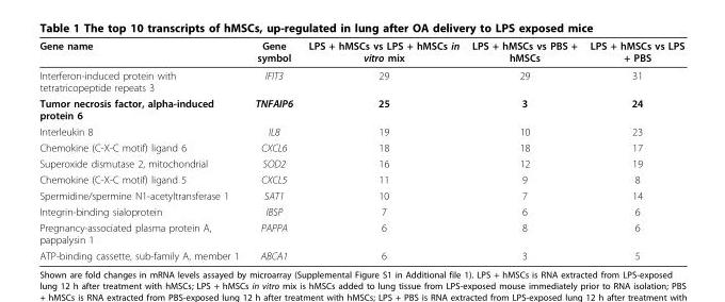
<table><thead><tr><td>Gene name</td><td>Gene symbol</td><td>LPS + hMSCs vs LPS + hMSCs in vitro mix</td><td>LPS + hMSCs vs PBS + hMSCs</td><td>LPS + hMSCs vs LPS + PBS</td></tr></thead><tbody><tr><td>Interferon-induced protein with tetratricopeptide repeats 3</td><td>IFIT3</td><td>29</td><td>29</td><td>31</td></tr><tr><td>Tumor necrosis factor, alpha-induced protein 6</td><td>TNFAIP6</td><td>25</td><td>3</td><td>24</td></tr><tr><td>Interleukin 8</td><td>IL8</td><td>19</td><td>10</td><td>23</td></tr><tr><td>Chemokine (C-X-C motif) ligand 6</td><td>CXCL6</td><td>18</td><td>18</td><td>17</td></tr><tr><td>Superoxide dismutase 2, mitochondrial</td><td>SOD2</td><td>16</td><td>12</td><td>19</td></tr><tr><td>Chemokine (C-X-C motif) ligand 5</td><td>CXCL5</td><td>11</td><td>9</td><td>8</td></tr><tr><td>Spermidine/spermine N1-acetyltransferase 1</td><td>SAT1</td><td>10</td><td>7</td><td>14</td></tr><tr><td>Integrin-binding sialoprotein</td><td>IBSP</td><td>7</td><td>6</td><td>6</td></tr><tr><td>Pregnancy-associated plasma protein A, pappalysin 1</td><td>PAPPA</td><td>6</td><td>8</td><td>6</td></tr><tr><td>ATP-binding cassette, sub-family A, member 1</td><td>ABCA1</td><td>6</td><td>3</td><td>5</td></tr></tbody></table>